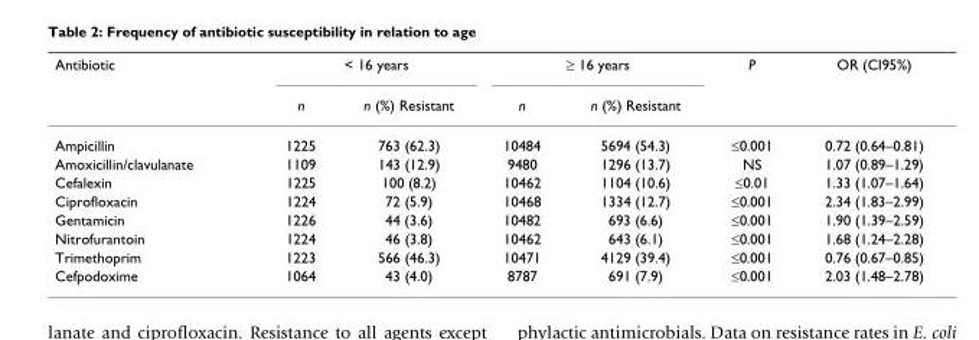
<table><thead><tr><td rowspan="2">Antibiotic</td><td colspan="2">&lt; 16 years</td><td colspan="2">≥ 16 years</td><td rowspan="2">P</td><td rowspan="2">OR (CI95%)</td></tr><tr><td>n</td><td>n (%) Resistant</td><td>n</td><td>n (%) Resistant</td></tr></thead><tbody><tr><td>Ampicillin</td><td>1225</td><td>763 (62.3)</td><td>10484</td><td>5694 (54.3)</td><td>≤0.001</td><td>0.72 (0.64–0.81)</td></tr><tr><td>Amoxicillin/clavulanate</td><td>1109</td><td>143 (12.9)</td><td>9480</td><td>1296 (13.7)</td><td>NS</td><td>1.07 (0.89–1.29)</td></tr><tr><td>Cefalexin</td><td>1225</td><td>100 (8.2)</td><td>10462</td><td>1104 (10.6)</td><td>≤0.01</td><td>1.33 (1.07–1.64)</td></tr><tr><td>Ciprofloxacin</td><td>1224</td><td>72 (5.9)</td><td>10468</td><td>1334 (12.7)</td><td>≤0.001</td><td>2.34 (1.83–2.99)</td></tr><tr><td>Gentamicin</td><td>1226</td><td>44 (3.6)</td><td>10482</td><td>693 (6.6)</td><td>≤0.001</td><td>1.90 (1.39–2.59)</td></tr><tr><td>Nitrofurantoin</td><td>1224</td><td>46 (3.8)</td><td>10462</td><td>643 (6.1)</td><td>≤0.001</td><td>1.68 (1.24–2.28)</td></tr><tr><td>Trimethoprim</td><td>1223</td><td>566 (46.3)</td><td>10471</td><td>4129 (39.4)</td><td>≤0.001</td><td>0.76 (0.67–0.85)</td></tr><tr><td>Cefpodoxime</td><td>1064</td><td>43 (4.0)</td><td>8787</td><td>691 (7.9)</td><td>≤0.001</td><td>2.03 (1.48–2.78)</td></tr></tbody></table>